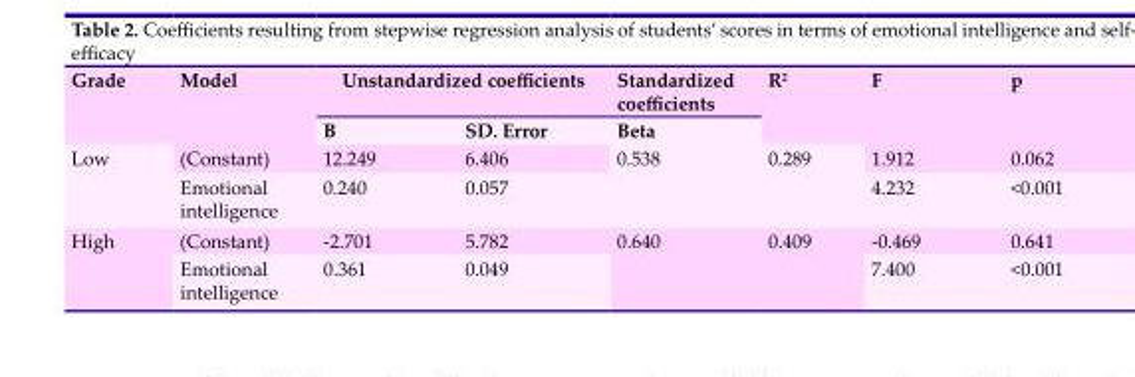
<table><thead><tr><td rowspan="2">Grade</td><td rowspan="2">Model</td><td colspan="2">Unstandardized coefficients</td><td rowspan="2">Standardized coefficients Beta</td><td rowspan="2">R<sup>2</sup></td><td rowspan="2">F</td><td rowspan="2">p</td></tr><tr><td>B</td><td>SD. Error</td></tr></thead><tbody><tr><td rowspan="2">Low</td><td>(Constant)</td><td>12.249</td><td>6.406</td><td rowspan="2">0.538</td><td rowspan="2">0.289</td><td>1.912</td><td>0.062</td></tr><tr><td>Emotional intelligence</td><td>0.240</td><td>0.057</td><td>4.232</td><td>&lt;0.001</td></tr><tr><td rowspan="2">High</td><td>(Constant)</td><td>-2.701</td><td>5.782</td><td rowspan="2">0.640</td><td rowspan="2">0.409</td><td>-0.469</td><td>0.641</td></tr><tr><td>Emotional intelligence</td><td>0.361</td><td>0.049</td><td>7.400</td><td>&lt;0.001</td></tr></tbody></table>